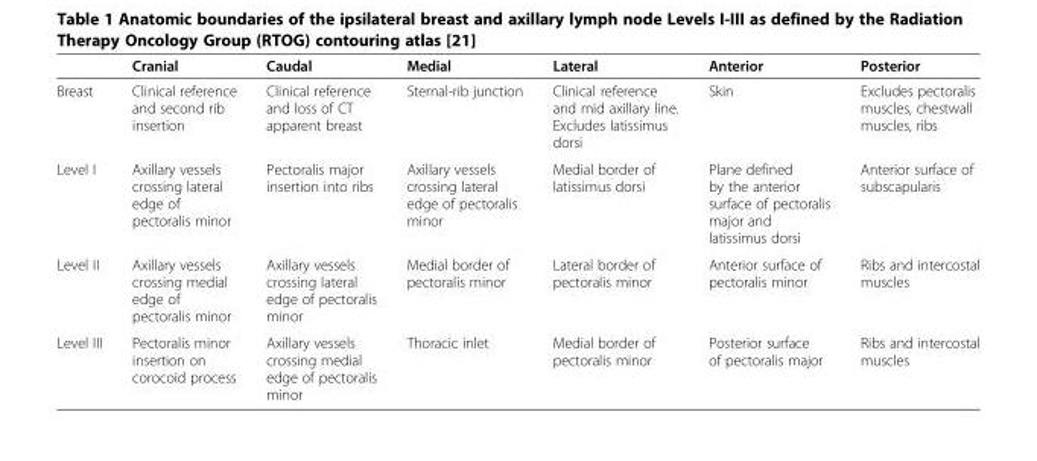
<table><thead><tr><td></td><td>Cranial</td><td>Caudal</td><td>Medial</td><td>Lateral</td><td>Anterior</td><td>Posterior</td></tr></thead><tbody><tr><td>Breast</td><td>Clinical reference and second rib insertion</td><td>Clinical reference and loss of CT apparent breast</td><td>Sternal-rib junction</td><td>Clinical reference and mid axillary line. Excludes latissimus dorsi</td><td>Skin</td><td>Excludes pectoralis muscles, chestwall muscles, ribs</td></tr><tr><td>Level I</td><td>Axillary vessels crossing lateral edge of pectoralis minor</td><td>Pectoralis major insertion into ribs</td><td>Axillary vessels crossing lateral edge of pectoralis minor</td><td>Medial border of latissimus dorsi</td><td>Plane defined by the anterior surface of pectoralis major and latissimus dorsi</td><td>Anterior surface of subscapularis</td></tr><tr><td>Level II</td><td>Axillary vessels crossing medial edge of pectoralis minor</td><td>Axillary vessels crossing lateral edge of pectoralis minor</td><td>Medial border of pectoralis minor</td><td>Lateral border of pectoralis minor</td><td>Anterior surface of pectoralis minor</td><td>Ribs and intercostal muscles</td></tr><tr><td>Level III</td><td>Pectoralis minor insertion on corocoid process</td><td>Axillary vessels crossing medial edge of pectoralis minor</td><td>Thoracic inlet</td><td>Medial border of pectoralis minor</td><td>Posterior surface of pectoralis major</td><td>Ribs and intercostal muscles</td></tr></tbody></table>